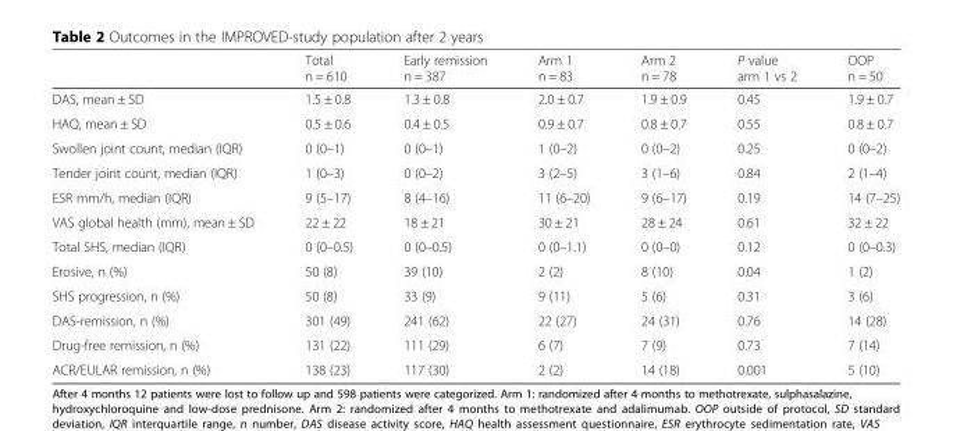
<table><thead><tr><td></td><td>Total n = 610</td><td>Early remission n = 387</td><td>Arm 1 n = 83</td><td>Arm 2 n = 78</td><td>P value arm 1 vs 2</td><td>OOP n = 50</td></tr></thead><tbody><tr><td>DAS, mean ± SD</td><td>1.5 ± 0.8</td><td>1.3 ± 0.8</td><td>2.0 ± 0.7</td><td>1.9 ± 0.9</td><td>0.45</td><td>1.9 ± 0.7</td></tr><tr><td>HAQ, mean ± SD</td><td>0.5 ± 0.6</td><td>0.4 ± 0.5</td><td>0.9 ± 0.7</td><td>0.8 ± 0.7</td><td>0.55</td><td>0.8 ± 0.7</td></tr><tr><td>Swollen joint count, median (IQR)</td><td>0 (0–1)</td><td>0 (0–1)</td><td>1 (0–2)</td><td>0 (0–2)</td><td>0.25</td><td>0 (0–2)</td></tr><tr><td>Tender joint count, median (IQR)</td><td>1 (0–3)</td><td>0 (0–2)</td><td>3 (2–5)</td><td>3 (1–6)</td><td>0.84</td><td>2 (1–4)</td></tr><tr><td>ESR mm/h, median (IQR)</td><td>9 (5–17)</td><td>8 (4–16)</td><td>11 (6–20)</td><td>9 (6–17)</td><td>0.19</td><td>14 (7–25)</td></tr><tr><td>VAS global health (mm), mean ± SD</td><td>22 ± 22</td><td>18 ± 21</td><td>30 ± 21</td><td>28 ± 24</td><td>0.61</td><td>32 ± 22</td></tr><tr><td>Total SHS, median (IQR)</td><td>0 (0–0.5)</td><td>0 (0–0.5)</td><td>0 (0–1.1)</td><td>0 (0–0)</td><td>0.12</td><td>0 (0–0.3)</td></tr><tr><td>Erosive, n (%)</td><td>50 (8)</td><td>39 (10)</td><td>2 (2)</td><td>8 (10)</td><td>0.04</td><td>1 (2)</td></tr><tr><td>SHS progression, n (%)</td><td>50 (8)</td><td>33 (9)</td><td>9 (11)</td><td>5 (6)</td><td>0.31</td><td>3 (6)</td></tr><tr><td>DAS-remission, n (%)</td><td>301 (49)</td><td>241 (62)</td><td>22 (27)</td><td>24 (31)</td><td>0.76</td><td>14 (28)</td></tr><tr><td>Drug-free remission, n (%)</td><td>131 (22)</td><td>111 (29)</td><td>6 (7)</td><td>7 (9)</td><td>0.73</td><td>7 (14)</td></tr><tr><td>ACR/EULAR remission, n (%)</td><td>138 (23)</td><td>117 (30)</td><td>2 (2)</td><td>14 (18)</td><td>0.001</td><td>5 (10)</td></tr></tbody></table>